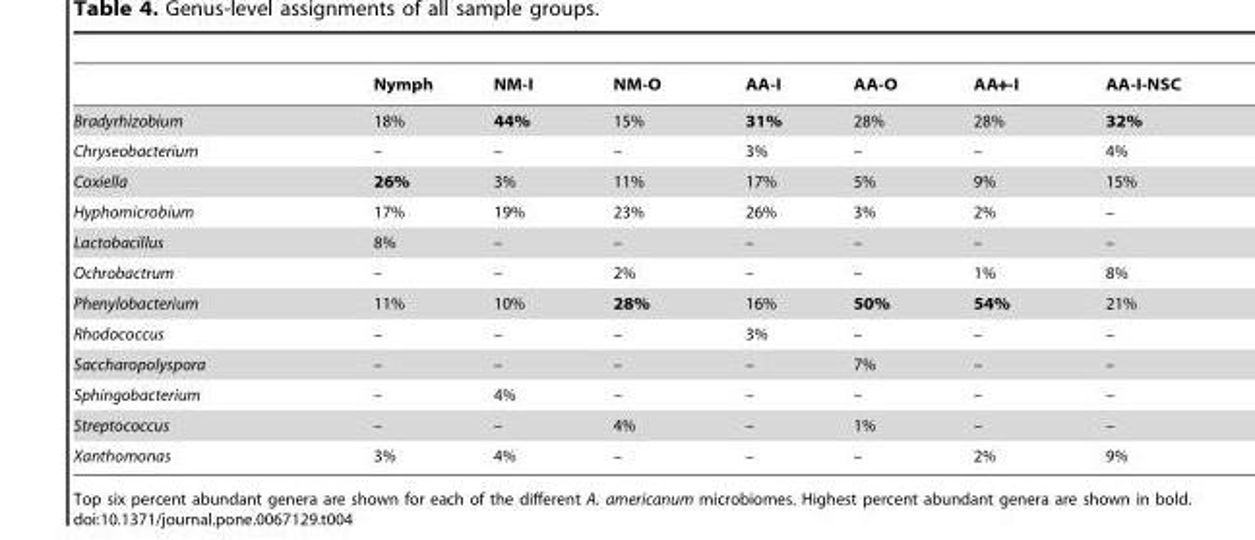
<table><thead><tr><td></td><td>Nymph</td><td>NM-I</td><td>NM-O</td><td>AA-I</td><td>AA-O</td><td>AA+-I</td><td>AA-I-NSC</td></tr></thead><tbody><tr><td>Bradyrhizobium</td><td>18%</td><td>44%</td><td>15%</td><td>31%</td><td>28%</td><td>28%</td><td>32%</td></tr><tr><td>Chryseobacterium</td><td>–</td><td>–</td><td>–</td><td>3%</td><td>–</td><td>–</td><td>4%</td></tr><tr><td>Coxiella</td><td>26%</td><td>3%</td><td>11%</td><td>17%</td><td>5%</td><td>9%</td><td>15%</td></tr><tr><td>Hyphomicrobium</td><td>17%</td><td>19%</td><td>23%</td><td>26%</td><td>3%</td><td>2%</td><td>–</td></tr><tr><td>Lactobacillus</td><td>8%</td><td>–</td><td>–</td><td>–</td><td>–</td><td>–</td><td>–</td></tr><tr><td>Ochrobactrum</td><td>–</td><td>–</td><td>2%</td><td>–</td><td>–</td><td>1%</td><td>8%</td></tr><tr><td>Phenylobacterium</td><td>11%</td><td>10%</td><td>28%</td><td>16%</td><td>50%</td><td>54%</td><td>21%</td></tr><tr><td>Rhodococcus</td><td>–</td><td>–</td><td>–</td><td>3%</td><td>–</td><td>–</td><td>–</td></tr><tr><td>Saccharopolyspora</td><td>–</td><td>–</td><td>–</td><td>–</td><td>7%</td><td>–</td><td>–</td></tr><tr><td>Sphingobacterium</td><td>–</td><td>4%</td><td>–</td><td>–</td><td>–</td><td>–</td><td>–</td></tr><tr><td>Streptococcus</td><td>–</td><td>–</td><td>4%</td><td>–</td><td>1%</td><td>–</td><td>–</td></tr><tr><td>Xanthomonas</td><td>3%</td><td>4%</td><td>–</td><td>–</td><td>–</td><td>2%</td><td>9%</td></tr></tbody></table>